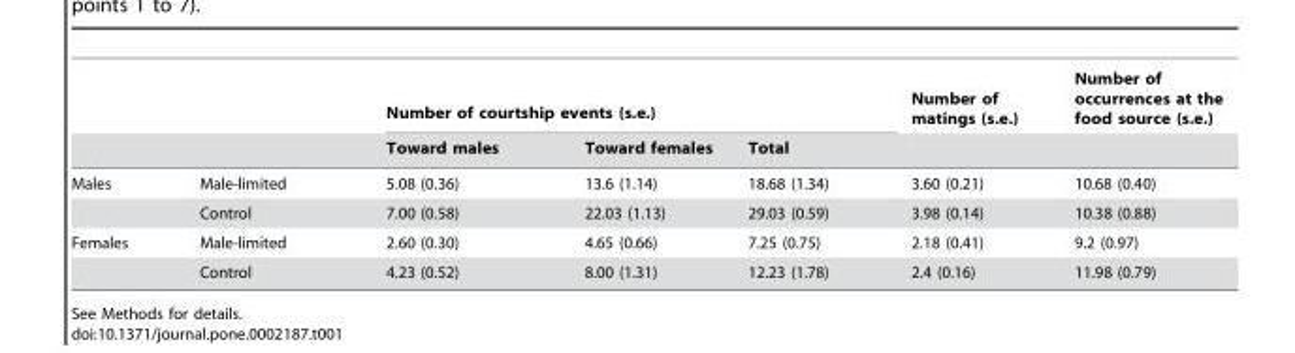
<table><thead><tr><td rowspan="2"></td><td rowspan="2"></td><td colspan="3">Number of courtship events (s.e.)</td><td rowspan="2">Number of matings (s.e.)</td><td rowspan="2">Number of occurrences at the food source (s.e.)</td></tr><tr><td>Toward males</td><td>Toward females</td><td>Total</td></tr></thead><tbody><tr><td rowspan="2">Males</td><td>Male-limited</td><td>5.08 (0.36)</td><td>13.6 (1.14)</td><td>18.68 (1.34)</td><td>3.60 (0.21)</td><td>10.68 (0.40)</td></tr><tr><td>Control</td><td>7.00 (0.58)</td><td>22.03 (1.13)</td><td>29.03 (0.59)</td><td>3.98 (0.14)</td><td>10.38 (0.88)</td></tr><tr><td rowspan="2">Females</td><td>Male-limited</td><td>2.60 (0.30)</td><td>4.65 (0.66)</td><td>7.25 (0.75)</td><td>2.18 (0.41)</td><td>9.2 (0.97)</td></tr><tr><td>Control</td><td>4.23 (0.52)</td><td>8.00 (1.31)</td><td>12.23 (1.78)</td><td>2.4 (0.16)</td><td>11.98 (0.79)</td></tr></tbody></table>